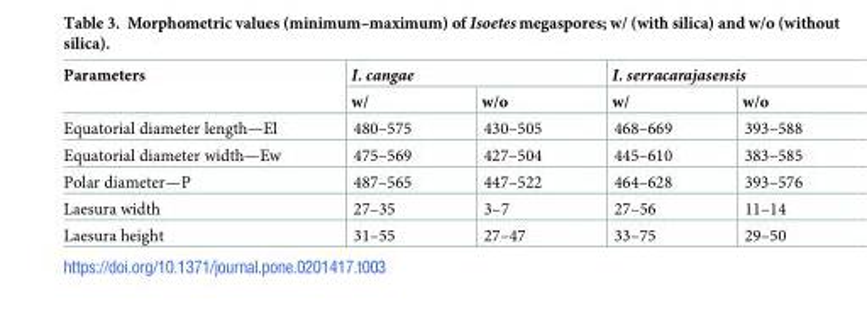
<table><thead><tr><td rowspan="2">Parameters</td><td colspan="2">I. cangae</td><td colspan="2">I. serracarajasensis</td></tr><tr><td>w/</td><td>w/o</td><td>w/</td><td>w/o</td></tr></thead><tbody><tr><td>Equatorial diameter length—El</td><td>480–575</td><td>430–505</td><td>468–669</td><td>393–588</td></tr><tr><td>Equatorial diameter width—Ew</td><td>475–569</td><td>427–504</td><td>445–610</td><td>383–585</td></tr><tr><td>Polar diameter—P</td><td>487–565</td><td>447–522</td><td>464–628</td><td>393–576</td></tr><tr><td>Laesura width</td><td>27–35</td><td>3–7</td><td>27–56</td><td>11–14</td></tr><tr><td>Laesura height</td><td>31–55</td><td>27–47</td><td>33–75</td><td>29–50</td></tr></tbody></table>